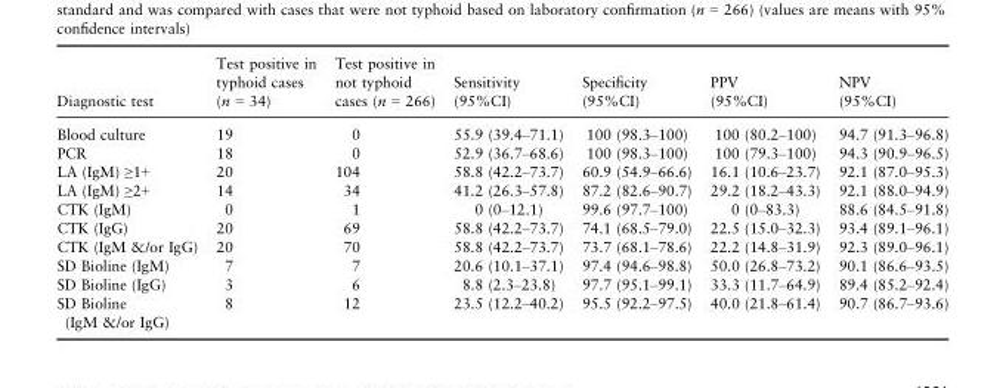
<table><thead><tr><td>Diagnostic test</td><td>Test positive in typhoid cases (n = 34)</td><td>Test positive in not typhoid cases (n = 266)</td><td>Sensitivity (95%CI)</td><td>Specificity (95%CI)</td><td>PPV (95%CI)</td><td>NPV (95%CI)</td></tr></thead><tbody><tr><td>Blood culture</td><td>19</td><td>0</td><td>55.9 (39.4–71.1)</td><td>100 (98.3–100)</td><td>100 (80.2–100)</td><td>94.7 (91.3–96.8)</td></tr><tr><td>PCR</td><td>18</td><td>0</td><td>52.9 (36.7–68.6)</td><td>100 (98.3–100)</td><td>100 (79.3–100)</td><td>94.3 (90.9–96.5)</td></tr><tr><td>LA (IgM) ≥1+</td><td>20</td><td>104</td><td>58.8 (42.2–73.7)</td><td>60.9 (54.9–66.6)</td><td>16.1 (10.6–23.7)</td><td>92.1 (87.0–95.3)</td></tr><tr><td>LA (IgM) ≥2+</td><td>14</td><td>34</td><td>41.2 (26.3–57.8)</td><td>87.2 (82.6–90.7)</td><td>29.2 (18.2–43.3)</td><td>92.1 (88.0–94.9)</td></tr><tr><td>CTK (IgM)</td><td>0</td><td>1</td><td>0 (0–12.1)</td><td>99.6 (97.7–100)</td><td>0 (0–83.3)</td><td>88.6 (84.5–91.8)</td></tr><tr><td>CTK (IgG)</td><td>20</td><td>69</td><td>58.8 (42.2–73.7)</td><td>74.1 (68.5–79.0)</td><td>22.5 (15.0–32.3)</td><td>93.4 (89.1–96.1)</td></tr><tr><td>CTK (IgM &amp;/or IgG)</td><td>20</td><td>70</td><td>58.8 (42.2–73.7)</td><td>73.7 (68.1–78.6)</td><td>22.2 (14.8–31.9)</td><td>92.3 (89.0–96.1)</td></tr><tr><td>SD Bioline (IgM)</td><td>7</td><td>7</td><td>20.6 (10.1–37.1)</td><td>97.4 (94.6–98.8)</td><td>50.0 (26.8–73.2)</td><td>90.1 (86.6–93.5)</td></tr><tr><td>SD Bioline (IgG)</td><td>3</td><td>6</td><td>8.8 (2.3–23.8)</td><td>97.7 (95.1–99.1)</td><td>33.3 (11.7–64.9)</td><td>89.4 (85.2–92.4)</td></tr><tr><td>SD Bioline (IgM &amp;/or IgG)</td><td>8</td><td>12</td><td>23.5 (12.2–40.2)</td><td>95.5 (92.2–97.5)</td><td>40.0 (21.8–61.4)</td><td>90.7 (86.7–93.6)</td></tr></tbody></table>